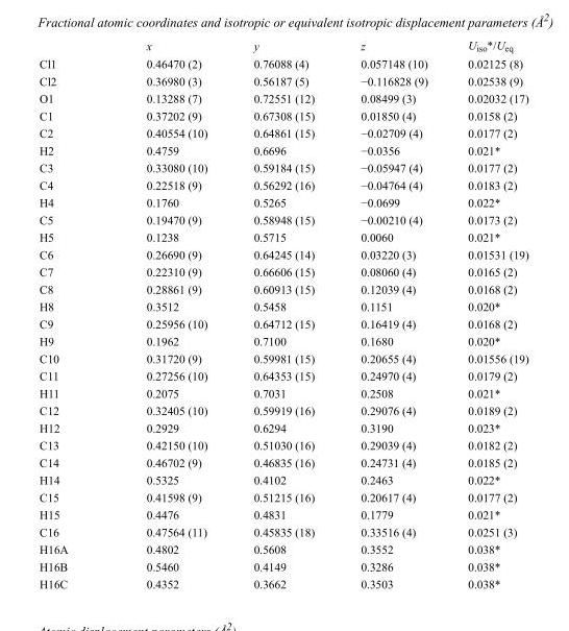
<table><thead><tr><td></td><td>x</td><td>y</td><td>z</td><td>U<sub>iso</sub>*/U<sub>eq</sub></td></tr></thead><tbody><tr><td>Cl1</td><td>0.46470 (2)</td><td>0.76088 (4)</td><td>0.057148 (10)</td><td>0.02125 (8)</td></tr><tr><td>Cl2</td><td>0.36980 (3)</td><td>0.56187 (5)</td><td>−0.116828 (9)</td><td>0.02538 (9)</td></tr><tr><td>O1</td><td>0.13288 (7)</td><td>0.72551 (12)</td><td>0.08499 (3)</td><td>0.02032 (17)</td></tr><tr><td>C1</td><td>0.37202 (9)</td><td>0.67308 (15)</td><td>0.01850 (4)</td><td>0.0158 (2)</td></tr><tr><td>C2</td><td>0.40554 (10)</td><td>0.64861 (15)</td><td>−0.02709 (4)</td><td>0.0177 (2)</td></tr><tr><td>H2</td><td>0.4759</td><td>0.6696</td><td>−0.0356</td><td>0.021*</td></tr><tr><td>C3</td><td>0.33080 (10)</td><td>0.59184 (15)</td><td>−0.05947 (4)</td><td>0.0177 (2)</td></tr><tr><td>C4</td><td>0.22518 (9)</td><td>0.56292 (16)</td><td>−0.04764 (4)</td><td>0.0183 (2)</td></tr><tr><td>H4</td><td>0.1760</td><td>0.5265</td><td>−0.0699</td><td>0.022*</td></tr><tr><td>C5</td><td>0.19470 (9)</td><td>0.58948 (15)</td><td>−0.00210 (4)</td><td>0.0173 (2)</td></tr><tr><td>H5</td><td>0.1238</td><td>0.5715</td><td>0.0060</td><td>0.021*</td></tr><tr><td>C6</td><td>0.26690 (9)</td><td>0.64245 (14)</td><td>0.03220 (3)</td><td>0.01531 (19)</td></tr><tr><td>C7</td><td>0.22310 (9)</td><td>0.66606 (15)</td><td>0.08060 (4)</td><td>0.0165 (2)</td></tr><tr><td>C8</td><td>0.28861 (9)</td><td>0.60913 (15)</td><td>0.12039 (4)</td><td>0.0168 (2)</td></tr><tr><td>H8</td><td>0.3512</td><td>0.5458</td><td>0.1151</td><td>0.020*</td></tr><tr><td>C9</td><td>0.25956 (10)</td><td>0.64712 (15)</td><td>0.16419 (4)</td><td>0.0168 (2)</td></tr><tr><td>H9</td><td>0.1962</td><td>0.7100</td><td>0.1680</td><td>0.020*</td></tr><tr><td>C10</td><td>0.31720 (9)</td><td>0.59981 (15)</td><td>0.20655 (4)</td><td>0.01556 (19)</td></tr><tr><td>C11</td><td>0.27256 (10)</td><td>0.64353 (15)</td><td>0.24970 (4)</td><td>0.0179 (2)</td></tr><tr><td>H11</td><td>0.2075</td><td>0.7031</td><td>0.2508</td><td>0.021*</td></tr><tr><td>C12</td><td>0.32405 (10)</td><td>0.59919 (16)</td><td>0.29076 (4)</td><td>0.0189 (2)</td></tr><tr><td>H12</td><td>0.2929</td><td>0.6294</td><td>0.3190</td><td>0.023*</td></tr><tr><td>C13</td><td>0.42150 (10)</td><td>0.51030 (16)</td><td>0.29039 (4)</td><td>0.0182 (2)</td></tr><tr><td>C14</td><td>0.46702 (9)</td><td>0.46835 (16)</td><td>0.24731 (4)</td><td>0.0185 (2)</td></tr><tr><td>H14</td><td>0.5325</td><td>0.4102</td><td>0.2463</td><td>0.022*</td></tr><tr><td>C15</td><td>0.41598 (9)</td><td>0.51215 (16)</td><td>0.20617 (4)</td><td>0.0177 (2)</td></tr><tr><td>H15</td><td>0.4476</td><td>0.4831</td><td>0.1779</td><td>0.021*</td></tr><tr><td>C16</td><td>0.47564 (11)</td><td>0.45835 (18)</td><td>0.33516 (4)</td><td>0.0251 (3)</td></tr><tr><td>H16A</td><td>0.4802</td><td>0.5608</td><td>0.3552</td><td>0.038*</td></tr><tr><td>H16B</td><td>0.5460</td><td>0.4149</td><td>0.3286</td><td>0.038*</td></tr><tr><td>H16C</td><td>0.4352</td><td>0.3662</td><td>0.3503</td><td>0.038*</td></tr></tbody></table>